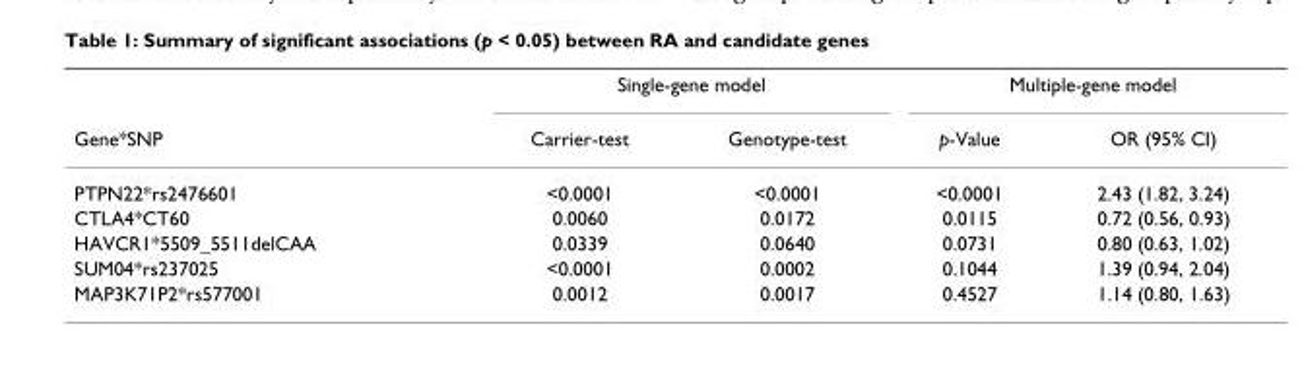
<table><thead><tr><td rowspan="2">Gene*SNP</td><td colspan="2">Single-gene model</td><td colspan="2">Multiple-gene model</td></tr><tr><td>Carrier-test</td><td>Genotype-test</td><td>p-Value</td><td>OR (95% CI)</td></tr></thead><tbody><tr><td>PTPN22*rs2476601</td><td>&lt;0.0001</td><td>&lt;0.0001</td><td>&lt;0.0001</td><td>2.43 (1.82, 3.24)</td></tr><tr><td>CTLA4*CT60</td><td>0.0060</td><td>0.0172</td><td>0.0115</td><td>0.72 (0.56, 0.93)</td></tr><tr><td>HAVCR1*5509_5511delCAA</td><td>0.0339</td><td>0.0640</td><td>0.0731</td><td>0.80 (0.63, 1.02)</td></tr><tr><td>SUM04*rs237025</td><td>&lt;0.0001</td><td>0.0002</td><td>0.1044</td><td>1.39 (0.94, 2.04)</td></tr><tr><td>MAP3K71P2*rs577001</td><td>0.0012</td><td>0.0017</td><td>0.4527</td><td>1.14 (0.80, 1.63)</td></tr></tbody></table>